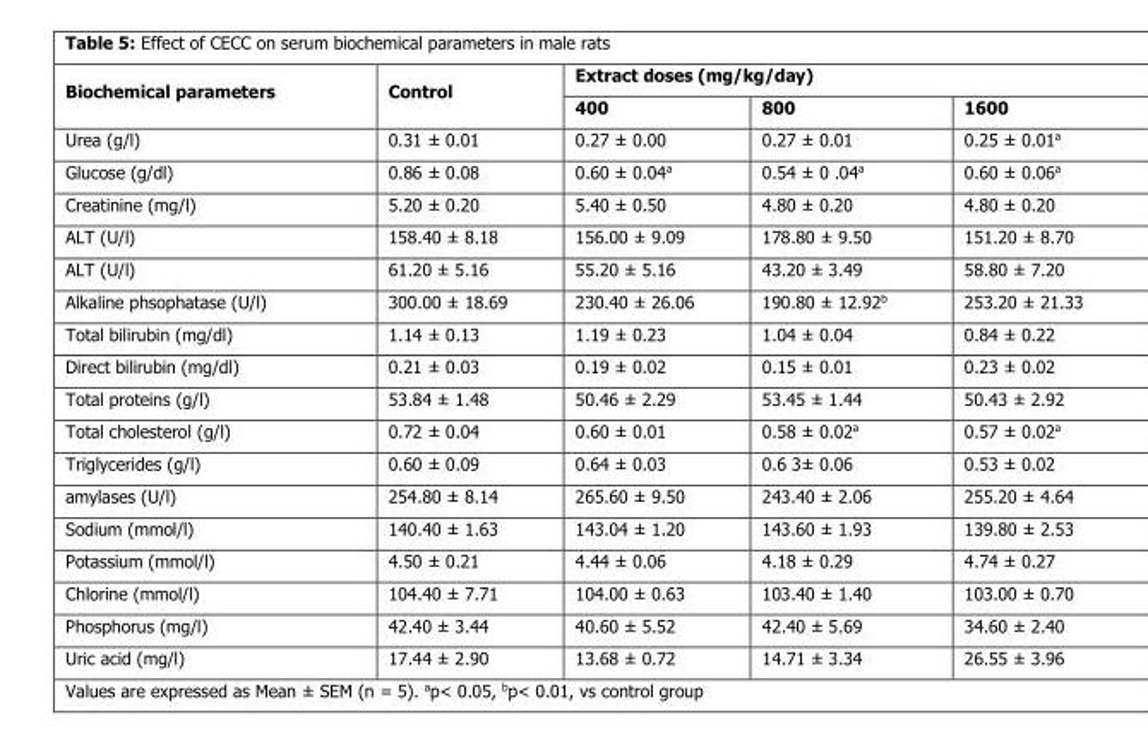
<table><thead><tr><td rowspan="2">Biochemical parameters</td><td rowspan="2">Control</td><td colspan="3">Extract doses (mg/kg/day)</td></tr><tr><td>400</td><td>800</td><td>1600</td></tr></thead><tbody><tr><td>Urea (g/l)</td><td>0.31 ± 0.01</td><td>0.27 ± 0.00</td><td>0.27 ± 0.01</td><td>0.25 ± 0.01<sup>a</sup></td></tr><tr><td>Glucose (g/dl)</td><td>0.86 ± 0.08</td><td>0.60 ± 0.04<sup>a</sup></td><td>0.54 ± 0 .04<sup>a</sup></td><td>0.60 ± 0.06<sup>a</sup></td></tr><tr><td>Creatinine (mg/l)</td><td>5.20 ± 0.20</td><td>5.40 ± 0.50</td><td>4.80 ± 0.20</td><td>4.80 ± 0.20</td></tr><tr><td>ALT (U/l)</td><td>158.40 ± 8.18</td><td>156.00 ± 9.09</td><td>178.80 ± 9.50</td><td>151.20 ± 8.70</td></tr><tr><td>ALT (U/l)</td><td>61.20 ± 5.16</td><td>55.20 ± 5.16</td><td>43.20 ± 3.49</td><td>58.80 ± 7.20</td></tr><tr><td>Alkaline phsophatase (U/l)</td><td>300.00 ± 18.69</td><td>230.40 ± 26.06</td><td>190.80 ± 12.92<sup>b</sup></td><td>253.20 ± 21.33</td></tr><tr><td>Total bilirubin (mg/dl)</td><td>1.14 ± 0.13</td><td>1.19 ± 0.23</td><td>1.04 ± 0.04</td><td>0.84 ± 0.22</td></tr><tr><td>Direct bilirubin (mg/dl)</td><td>0.21 ± 0.03</td><td>0.19 ± 0.02</td><td>0.15 ± 0.01</td><td>0.23 ± 0.02</td></tr><tr><td>Total proteins (g/l)</td><td>53.84 ± 1.48</td><td>50.46 ± 2.29</td><td>53.45 ± 1.44</td><td>50.43 ± 2.92</td></tr><tr><td>Total cholesterol (g/l)</td><td>0.72 ± 0.04</td><td>0.60 ± 0.01</td><td>0.58 ± 0.02<sup>a</sup></td><td>0.57 ± 0.02<sup>a</sup></td></tr><tr><td>Triglycerides (g/l)</td><td>0.60 ± 0.09</td><td>0.64 ± 0.03</td><td>0.6 3± 0.06</td><td>0.53 ± 0.02</td></tr><tr><td>amylases (U/l)</td><td>254.80 ± 8.14</td><td>265.60 ± 9.50</td><td>243.40 ± 2.06</td><td>255.20 ± 4.64</td></tr><tr><td>Sodium (mmol/l)</td><td>140.40 ± 1.63</td><td>143.04 ± 1.20</td><td>143.60 ± 1.93</td><td>139.80 ± 2.53</td></tr><tr><td>Potassium (mmol/l)</td><td>4.50 ± 0.21</td><td>4.44 ± 0.06</td><td>4.18 ± 0.29</td><td>4.74 ± 0.27</td></tr><tr><td>Chlorine (mmol/l)</td><td>104.40 ± 7.71</td><td>104.00 ± 0.63</td><td>103.40 ± 1.40</td><td>103.00 ± 0.70</td></tr><tr><td>Phosphorus (mg/l)</td><td>42.40 ± 3.44</td><td>40.60 ± 5.52</td><td>42.40 ± 5.69</td><td>34.60 ± 2.40</td></tr><tr><td>Uric acid (mg/l)</td><td>17.44 ± 2.90</td><td>13.68 ± 0.72</td><td>14.71 ± 3.34</td><td>26.55 ± 3.96</td></tr></tbody></table>